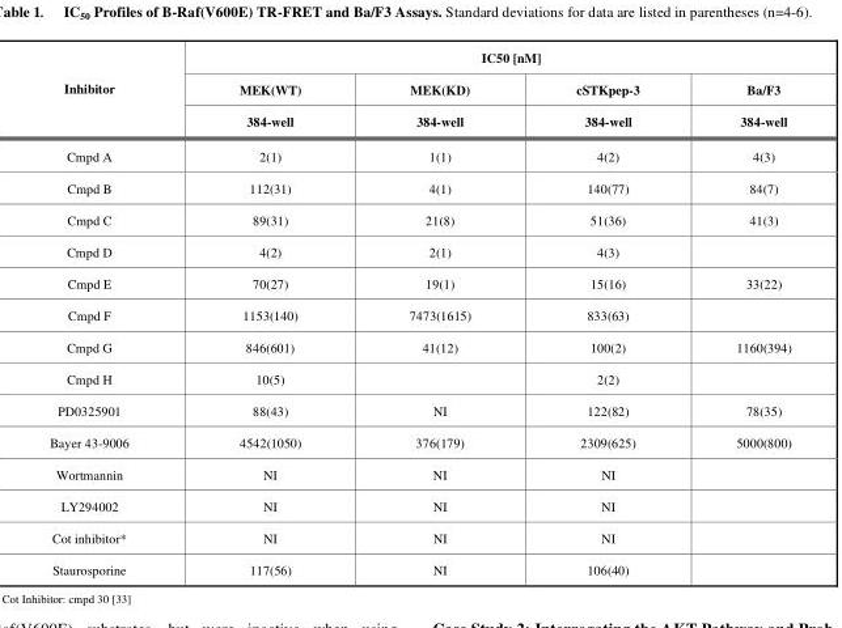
<table><thead><tr><td rowspan="3">Inhibitor</td><td colspan="4">IC50 [nM]</td></tr><tr><td rowspan="2">MEK(WT) 384-well</td><td rowspan="2">MEK(KD) 384-well</td><td rowspan="2">cSTKpep-3 384-well</td><td rowspan="2">Ba/F3 384-well</td></tr><tr></tr></thead><tbody><tr><td>Cmpd A</td><td>2(1)</td><td>1(1)</td><td>4(2)</td><td>4(3)</td></tr><tr><td>Cmpd B</td><td>112(31)</td><td>4(1)</td><td>140(77)</td><td>84(7)</td></tr><tr><td>Cmpd C</td><td>89(31)</td><td>21(8)</td><td>51(36)</td><td>41(3)</td></tr><tr><td>Cmpd D</td><td>4(2)</td><td>2(1)</td><td>4(3)</td><td></td></tr><tr><td>Cmpd E</td><td>70(27)</td><td>19(1)</td><td>15(16)</td><td>33(22)</td></tr><tr><td>Cmpd F</td><td>1153(140)</td><td>7473(1615)</td><td>833(63)</td><td></td></tr><tr><td>Cmpd G</td><td>846(601)</td><td>41(12)</td><td>100(2)</td><td>1160(394)</td></tr><tr><td>Cmpd H</td><td>10(5)</td><td></td><td>2(2)</td><td></td></tr><tr><td>PD0325901</td><td>88(43)</td><td>NI</td><td>122(82)</td><td>78(35)</td></tr><tr><td>Bayer 43-9006</td><td>4542(1050)</td><td>376(179)</td><td>2309(625)</td><td>5000(800)</td></tr><tr><td>Wortmannin</td><td>NI</td><td>NI</td><td>NI</td><td></td></tr><tr><td>LY294002</td><td>NI</td><td>NI</td><td>NI</td><td></td></tr><tr><td>Cot inhibitor*</td><td>NI</td><td>NI</td><td>NI</td><td></td></tr><tr><td>Staurosporine</td><td>117(56)</td><td>NI</td><td>106(40)</td><td></td></tr></tbody></table>